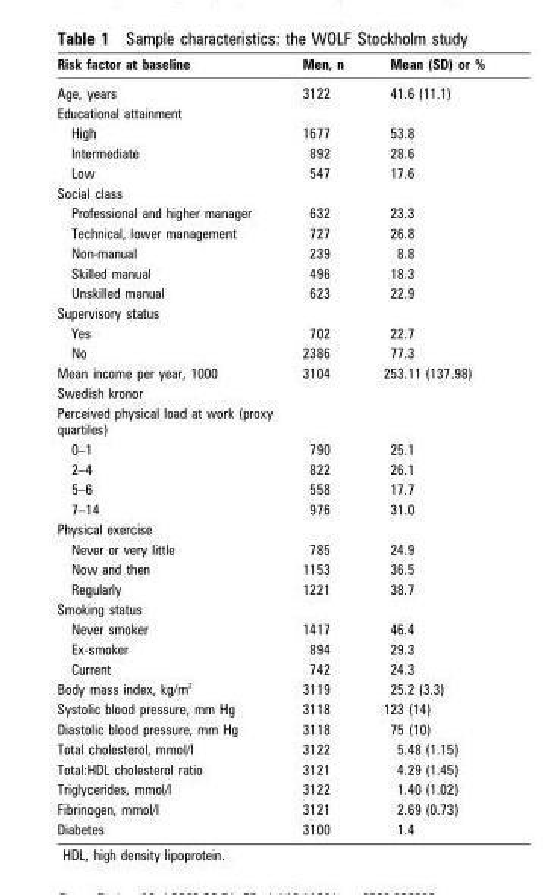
<table><thead><tr><td>Risk factor at baseline</td><td>Men, n</td><td>Mean (SD) or %</td></tr></thead><tbody><tr><td>Age, years</td><td>3122</td><td>41.6 (11.1)</td></tr><tr><td colspan="3">Educational attainment</td></tr><tr><td>High</td><td>1677</td><td>53.8</td></tr><tr><td>Intermediate</td><td>892</td><td>28.6</td></tr><tr><td>Low</td><td>547</td><td>17.6</td></tr><tr><td colspan="3">Social class</td></tr><tr><td>Professional and higher manager</td><td>632</td><td>23.3</td></tr><tr><td>Technical, lower management</td><td>727</td><td>26.8</td></tr><tr><td>Non-manual</td><td>239</td><td>8.8</td></tr><tr><td>Skilled manual</td><td>496</td><td>18.3</td></tr><tr><td>Unskilled manual</td><td>623</td><td>22.9</td></tr><tr><td colspan="3">Supervisory status</td></tr><tr><td>Yes</td><td>702</td><td>22.7</td></tr><tr><td>No</td><td>2386</td><td>77.3</td></tr><tr><td>Mean income per year, 1000</td><td>3104</td><td>253.11 (137.98)</td></tr><tr><td colspan="3">Swedish kronor</td></tr><tr><td colspan="3">Perceived physical load at work (proxy quartiles)</td></tr><tr><td>0–1</td><td>790</td><td>25.1</td></tr><tr><td>2–4</td><td>822</td><td>26.1</td></tr><tr><td>5–6</td><td>558</td><td>17.7</td></tr><tr><td>7–14</td><td>976</td><td>31.0</td></tr><tr><td colspan="3">Physical exercise</td></tr><tr><td>Never or very little</td><td>785</td><td>24.9</td></tr><tr><td>Now and then</td><td>1153</td><td>36.5</td></tr><tr><td>Regularly</td><td>1221</td><td>38.7</td></tr><tr><td colspan="3">Smoking status</td></tr><tr><td>Never smoker</td><td>1417</td><td>46.4</td></tr><tr><td>Ex-smoker</td><td>894</td><td>29.3</td></tr><tr><td>Current</td><td>742</td><td>24.3</td></tr><tr><td>Body mass index, kg/m <sup>2</sup></td><td>3119</td><td>25.2 (3.3)</td></tr><tr><td>Systolic blood pressure, mm Hg</td><td>3118</td><td>123 (14)</td></tr><tr><td>Diastolic blood pressure, mm Hg</td><td>3118</td><td>75 (10)</td></tr><tr><td>Total cholesterol, mmol/l</td><td>3122</td><td>5.48 (1.15)</td></tr><tr><td>Total:HDL cholesterol ratio</td><td>3121</td><td>4.29 (1.45)</td></tr><tr><td>Triglycerides, mmol/l</td><td>3122</td><td>1.40 (1.02)</td></tr><tr><td>Fibrinogen, mmol/l</td><td>3121</td><td>2.69 (0.73)</td></tr><tr><td>Diabetes</td><td>3100</td><td>1.4</td></tr></tbody></table>